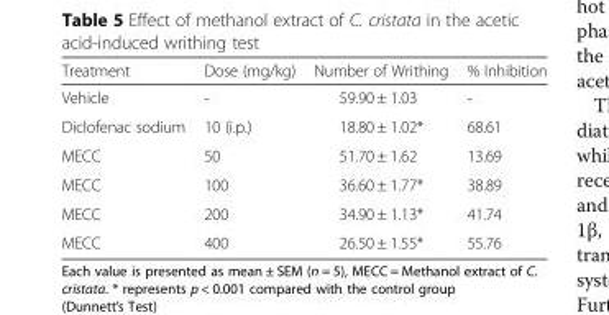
<table><thead><tr><td>Treatment</td><td>Dose (mg/kg)</td><td>Number of Writhing</td><td>% Inhibition</td></tr></thead><tbody><tr><td>Vehicle</td><td>-</td><td>59.90 ± 1.03</td><td>-</td></tr><tr><td>Diclofenac sodium</td><td>10 (i.p.)</td><td>18.80 ± 1.02*</td><td>68.61</td></tr><tr><td>MECC</td><td>50</td><td>51.70 ± 1.62</td><td>13.69</td></tr><tr><td>MECC</td><td>100</td><td>36.60 ± 1.77*</td><td>38.89</td></tr><tr><td>MECC</td><td>200</td><td>34.90 ± 1.13*</td><td>41.74</td></tr><tr><td>MECC</td><td>400</td><td>26.50 ± 1.55*</td><td>55.76</td></tr></tbody></table>